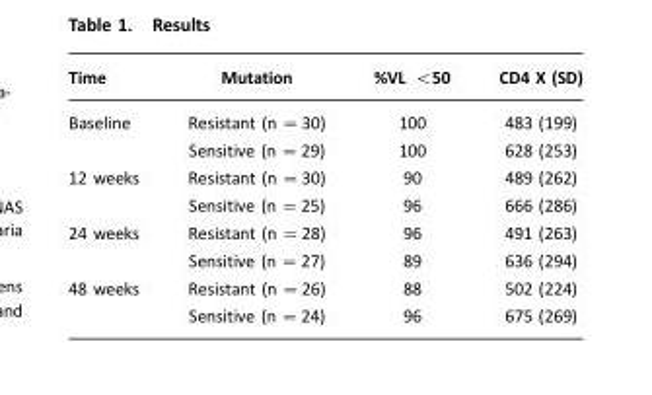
<table><thead><tr><td>Time</td><td>Mutation</td><td>%VL &lt;50</td><td>CD4 X (SD)</td></tr></thead><tbody><tr><td rowspan="2">Baseline</td><td>Resistant (n =30)</td><td>100</td><td>483 (199)</td></tr><tr><td>Sensitive (n =29)</td><td>100</td><td>628 (253)</td></tr><tr><td rowspan="2">12 weeks</td><td>Resistant (n =30)</td><td>90</td><td>489 (262)</td></tr><tr><td>Sensitive (n =25)</td><td>96</td><td>666 (286)</td></tr><tr><td rowspan="2">24 weeks</td><td>Resistant (n =28)</td><td>96</td><td>491 (263)</td></tr><tr><td>Sensitive (n =27)</td><td>89</td><td>636 (294)</td></tr><tr><td rowspan="2">48 weeks</td><td>Resistant (n =26)</td><td>88</td><td>502 (224)</td></tr><tr><td>Sensitive (n =24)</td><td>96</td><td>675 (269)</td></tr></tbody></table>